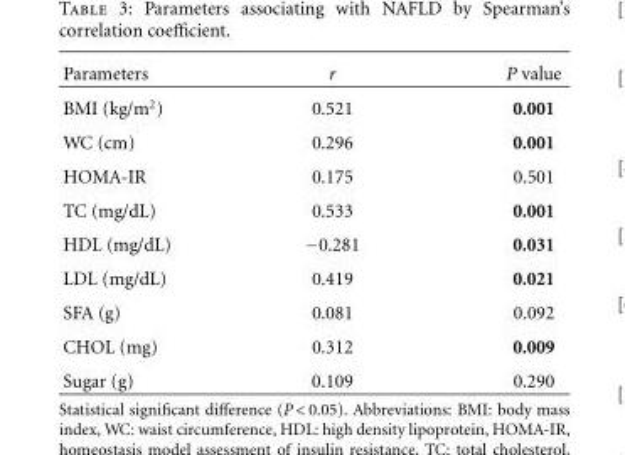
<table><thead><tr><td>Parameters</td><td>r</td><td>P value</td></tr></thead><tbody><tr><td>BMI (kg/m<sup>2</sup>)</td><td>0.521</td><td>0.001</td></tr><tr><td>WC (cm)</td><td>0.296</td><td>0.001</td></tr><tr><td>HOMA-IR</td><td>0.175</td><td>0.501</td></tr><tr><td>TC (mg/dL)</td><td>0.533</td><td>0.001</td></tr><tr><td>HDL (mg/dL)</td><td>−0.281</td><td>0.031</td></tr><tr><td>LDL (mg/dL)</td><td>0.419</td><td>0.021</td></tr><tr><td>SFA (g)</td><td>0.081</td><td>0.092</td></tr><tr><td>CHOL (mg)</td><td>0.312</td><td>0.009</td></tr><tr><td>Sugar (g)</td><td>0.109</td><td>0.290</td></tr></tbody></table>